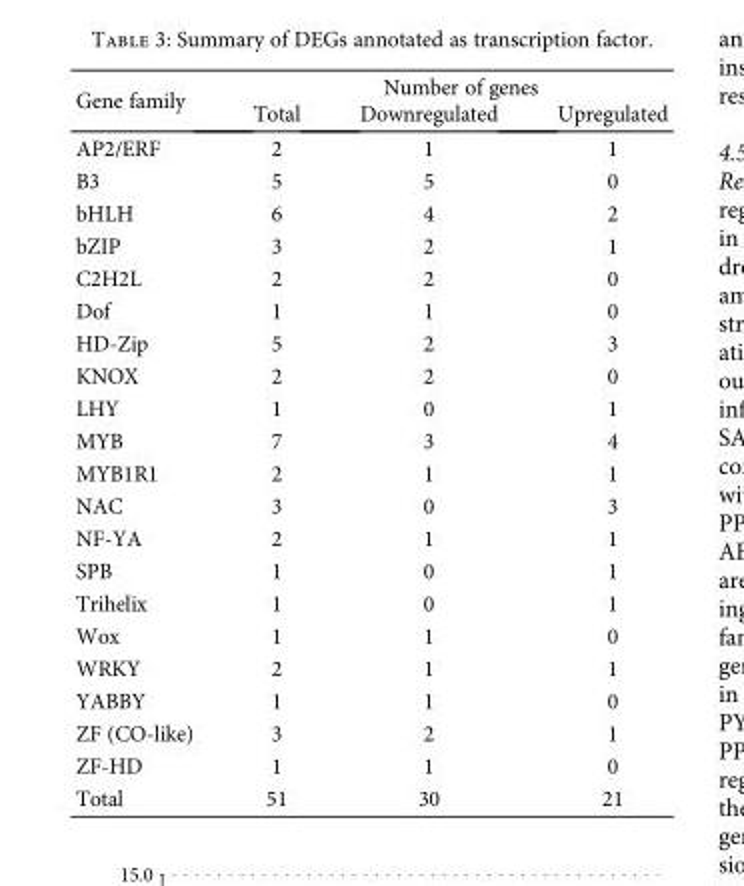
<table><thead><tr><td rowspan="2">Gene family</td><td colspan="3">Number of genes</td></tr><tr><td>Total</td><td>Downregulated</td><td>Upregulated</td></tr></thead><tbody><tr><td>AP2/ERF</td><td>2</td><td>1</td><td>1</td></tr><tr><td>B3</td><td>5</td><td>5</td><td>0</td></tr><tr><td>bHLH</td><td>6</td><td>4</td><td>2</td></tr><tr><td>bZIP</td><td>3</td><td>2</td><td>1</td></tr><tr><td>C2H2L</td><td>2</td><td>2</td><td>0</td></tr><tr><td>Dof</td><td>1</td><td>1</td><td>0</td></tr><tr><td>HD-Zip</td><td>5</td><td>2</td><td>3</td></tr><tr><td>KNOX</td><td>2</td><td>2</td><td>0</td></tr><tr><td>LHY</td><td>1</td><td>0</td><td>1</td></tr><tr><td>MYB</td><td>7</td><td>3</td><td>4</td></tr><tr><td>MYB1R1</td><td>2</td><td>1</td><td>1</td></tr><tr><td>NAC</td><td>3</td><td>0</td><td>3</td></tr><tr><td>NF-YA</td><td>2</td><td>1</td><td>1</td></tr><tr><td>SPB</td><td>1</td><td>0</td><td>1</td></tr><tr><td>Trihelix</td><td>1</td><td>0</td><td>1</td></tr><tr><td>Wox</td><td>1</td><td>1</td><td>0</td></tr><tr><td>WRKY</td><td>2</td><td>1</td><td>1</td></tr><tr><td>YABBY</td><td>1</td><td>1</td><td>0</td></tr><tr><td>ZF (CO-like)</td><td>3</td><td>2</td><td>1</td></tr><tr><td>ZF-HD</td><td>1</td><td>1</td><td>0</td></tr><tr><td>Total</td><td>51</td><td>30</td><td>21</td></tr></tbody></table>